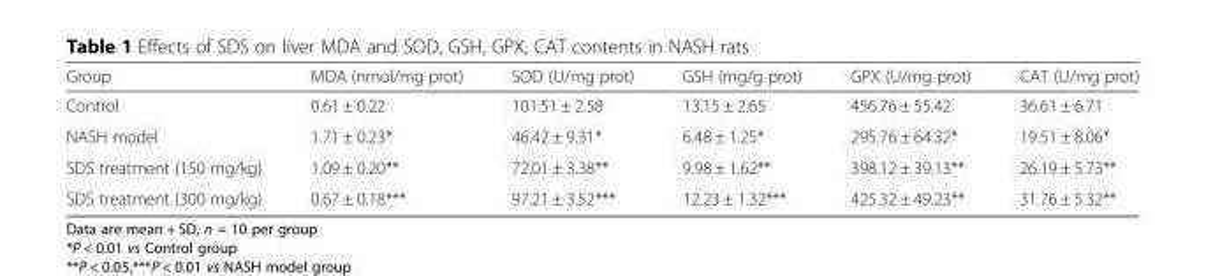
<table><thead><tr><td>Group</td><td>MDA (nmol/mg prot)</td><td>SOD (U/mg prot)</td><td>GSH (mg/g prot)</td><td>GPX (U/mg prot)</td><td>CAT (U/mg prot)</td></tr></thead><tbody><tr><td>Control</td><td>0.61 ± 0.22</td><td>101.51 ± 2.58</td><td>13.15 ± 2.65</td><td>456.76 ± 55.42</td><td>36.61 ± 6.71</td></tr><tr><td>NASH model</td><td>1.71 ± 0.23*</td><td>46.42 ± 9.31*</td><td>6.48 ± 1.25*</td><td>295.76 ± 64.32*</td><td>19.51 ± 8.06*</td></tr><tr><td>SDS treatment (150 mg/kg)</td><td>1.09 ± 0.20**</td><td>72.01 ± 3.38**</td><td>9.98 ± 1.62**</td><td>398.12 ± 39.13**</td><td>26.19 ± 5.73**</td></tr><tr><td>SDS treatment (300 mg/kg)</td><td>0.67 ± 0.18***</td><td>97.21 ± 3.52***</td><td>12.23 ± 1.32***</td><td>425.32 ± 49.23**</td><td>31.76 ± 5.32**</td></tr></tbody></table>